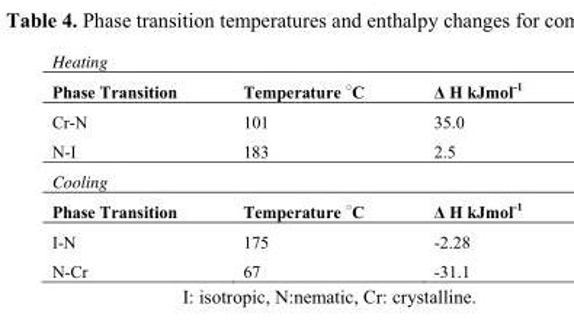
<table><tbody><tr><td colspan="3">Heating</td></tr><tr><td>Phase Transition</td><td>Temperature ○C</td><td>Δ H kJmol-1</td></tr><tr><td>Cr-N</td><td>101</td><td>35.0</td></tr><tr><td>N-I</td><td>183</td><td>2.5</td></tr><tr><td colspan="3">Cooling</td></tr><tr><td>Phase Transition</td><td>Temperature ○C</td><td>Δ H kJmol-1</td></tr><tr><td>I-N</td><td>175</td><td>-2.28</td></tr><tr><td>N-Cr</td><td>67</td><td>-31.1</td></tr></tbody></table>